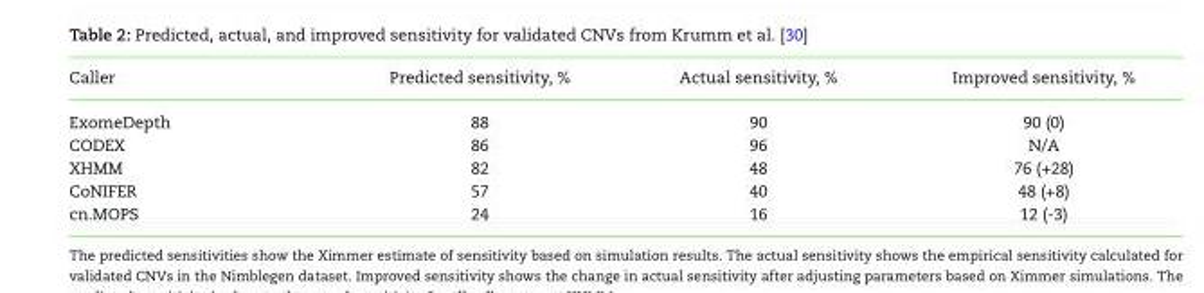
<table><thead><tr><td>Caller</td><td>Predicted sensitivity, %</td><td>Actual sensitivity, %</td><td>Improved sensitivity, %</td></tr></thead><tbody><tr><td>ExomeDepth</td><td>88</td><td>90</td><td>90 (0)</td></tr><tr><td>CODEX</td><td>86</td><td>96</td><td>N/A</td></tr><tr><td>XHMM</td><td>82</td><td>48</td><td>76 (+28)</td></tr><tr><td>CoNIFER</td><td>57</td><td>40</td><td>48 (+8)</td></tr><tr><td>cn.MOPS</td><td>24</td><td>16</td><td>12 (-3)</td></tr></tbody></table>